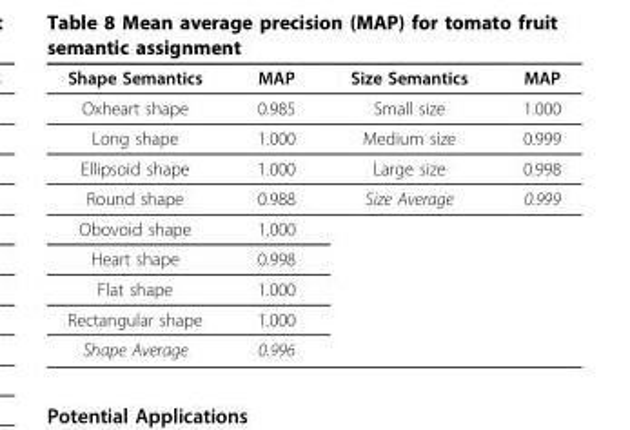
<table><thead><tr><td>Shape Semantics</td><td>MAP</td><td>Size Semantics</td><td>MAP</td></tr></thead><tbody><tr><td>Oxheart shape</td><td>0.985</td><td>Small size</td><td>1.000</td></tr><tr><td>Long shape</td><td>1.000</td><td>Medium size</td><td>0.999</td></tr><tr><td>Ellipsoid shape</td><td>1.000</td><td>Large size</td><td>0.998</td></tr><tr><td>Round shape</td><td>0.988</td><td>Size Average</td><td>0.999</td></tr><tr><td>Obovoid shape</td><td>1.000</td><td></td><td></td></tr><tr><td>Heart shape</td><td>0.998</td><td></td><td></td></tr><tr><td>Flat shape</td><td>1.000</td><td></td><td></td></tr><tr><td>Rectangular shape</td><td>1.000</td><td></td><td></td></tr><tr><td>Shape Average</td><td>0.996</td><td></td><td></td></tr></tbody></table>